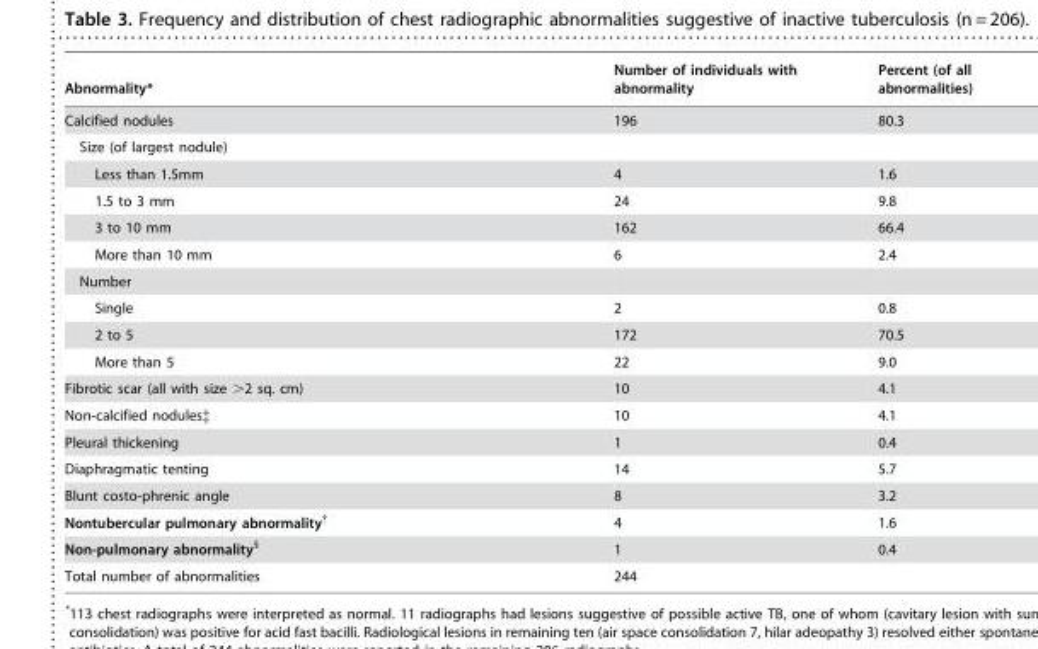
<table><thead><tr><td>Abnormality*</td><td>Number of individuals with abnormality</td><td>Percent (of all abnormalities)</td></tr></thead><tbody><tr><td>Calcified nodules</td><td>196</td><td>80.3</td></tr><tr><td colspan="3">Size (of largest nodule)</td></tr><tr><td>Less than 1.5mm</td><td>4</td><td>1.6</td></tr><tr><td>1.5 to 3 mm</td><td>24</td><td>9.8</td></tr><tr><td>3 to 10 mm</td><td>162</td><td>66.4</td></tr><tr><td>More than 10 mm</td><td>6</td><td>2.4</td></tr><tr><td colspan="3">Number</td></tr><tr><td>Single</td><td>2</td><td>0.8</td></tr><tr><td>2 to 5</td><td>172</td><td>70.5</td></tr><tr><td>More than 5</td><td>22</td><td>9.0</td></tr><tr><td>Fibrotic scar (all with size &gt;2 sq. cm)</td><td>10</td><td>4.1</td></tr><tr><td>Non-calcified nodules‡</td><td>10</td><td>4.1</td></tr><tr><td>Pleural thickening</td><td>1</td><td>0.4</td></tr><tr><td>Diaphragmatic tenting</td><td>14</td><td>5.7</td></tr><tr><td>Blunt costo-phrenic angle</td><td>8</td><td>3.2</td></tr><tr><td>Nontubercular pulmonary abnormality†</td><td>4</td><td>1.6</td></tr><tr><td>Non-pulmonary abnormality§</td><td>1</td><td>0.4</td></tr><tr><td>Total number of abnormalities</td><td>244</td><td></td></tr></tbody></table>